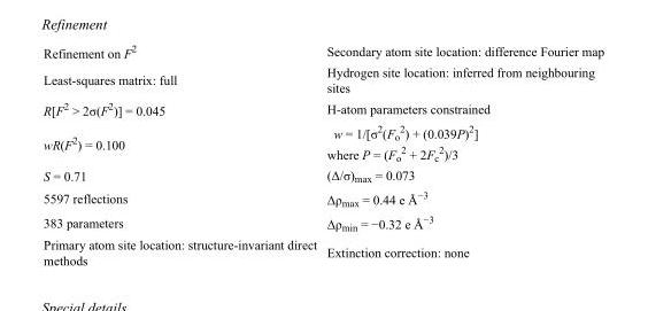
<table><tbody><tr><td>Refinement on F<sup>2</sup></td><td>Secondary atom site location: difference Fourier map</td></tr><tr><td>Least-squares matrix: full</td><td>Hydrogen site location: inferred from neighbouring sites</td></tr><tr><td>R[F<sup>2</sup> &gt; 2σ(F<sup>2</sup>)] = 0.045</td><td>H-atom parameters constrained</td></tr><tr><td>wR(F<sup>2</sup>) = 0.100</td><td>w = 1/[σ<sup>2</sup>(F<sub>o</sub> <sup>2</sup>) + (0.039P)<sup>2</sup>] where P = (F<sub>o</sub> <sup>2</sup> + 2F<sub>c</sub> <sup>2</sup>)/3</td></tr><tr><td>S = 0.71</td><td>(Δ/σ)<sub>max</sub> = 0.073</td></tr><tr><td>5597 reflections</td><td>Δρ<sub>max</sub> = 0.44 e Å<sup>−3</sup></td></tr><tr><td>383 parameters</td><td>Δρ<sub>min</sub> = −0.32 e Å<sup>−3</sup></td></tr><tr><td>Primary atom site location: structure-invariant direct methods</td><td>Extinction correction: none</td></tr></tbody></table>